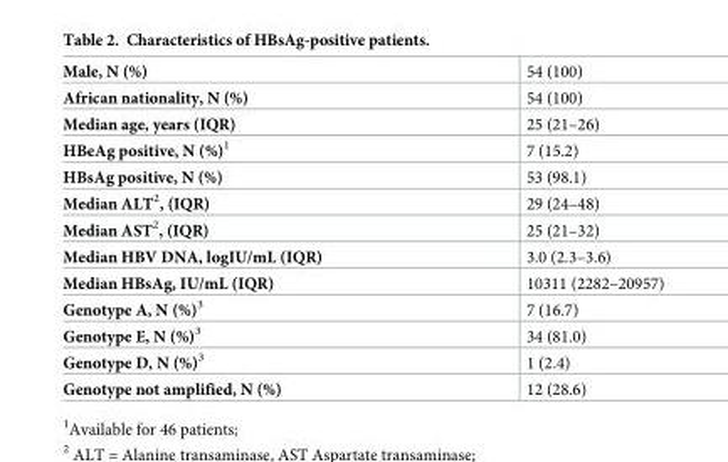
<table><tbody><tr><td>Male, N (%)</td><td>54 (100)</td></tr><tr><td>African nationality, N (%)</td><td>54 (100)</td></tr><tr><td>Median age, years (IQR)</td><td>25 (21–26)</td></tr><tr><td>HBeAg positive, N (%)<sup>1</sup></td><td>7 (15.2)</td></tr><tr><td>HBsAg positive, N (%)</td><td>53 (98.1)</td></tr><tr><td>Median ALT<sup>2</sup>, (IQR)</td><td>29 (24–48)</td></tr><tr><td>Median AST<sup>2</sup>, (IQR)</td><td>25 (21–32)</td></tr><tr><td>Median HBV DNA, logIU/mL (IQR)</td><td>3.0 (2.3–3.6)</td></tr><tr><td>Median HBsAg, IU/mL (IQR)</td><td>10311 (2282–20957)</td></tr><tr><td>Genotype A, N (%)<sup>3</sup></td><td>7 (16.7)</td></tr><tr><td>Genotype E, N (%)<sup>3</sup></td><td>34 (81.0)</td></tr><tr><td>Genotype D, N (%)<sup>3</sup></td><td>1 (2.4)</td></tr><tr><td>Genotype not amplified, N (%)</td><td>12 (28.6)</td></tr></tbody></table>